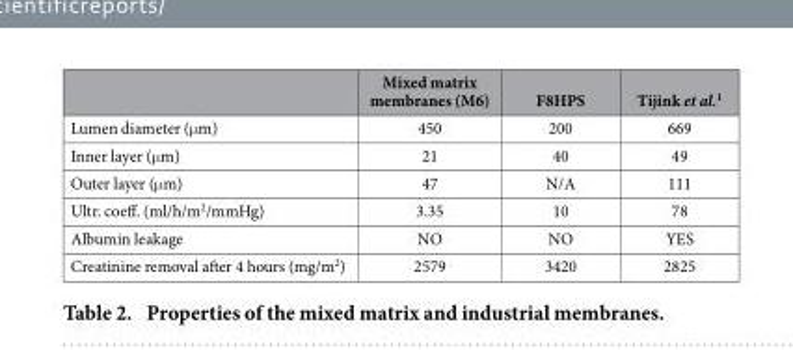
<table><thead><tr><td></td><td>Mixed matrix membranes (M6)</td><td>F8HPS</td><td>Tijink et al.<sup>1</sup></td></tr></thead><tbody><tr><td>Lumen diameter (μ m)</td><td>450</td><td>200</td><td>669</td></tr><tr><td>Inner layer (μ m)</td><td>21</td><td>40</td><td>49</td></tr><tr><td>Outer layer (μ m)</td><td>47</td><td>N/A</td><td>111</td></tr><tr><td>Ultr. coeff. (ml/h/m<sup>2</sup>/mmHg)</td><td>3.35</td><td>10</td><td>78</td></tr><tr><td>Albumin leakage</td><td>NO</td><td>NO</td><td>YES</td></tr><tr><td>Creatinine removal after 4 hours (mg/m<sup>2</sup>)</td><td>2579</td><td>3420</td><td>2825</td></tr></tbody></table>